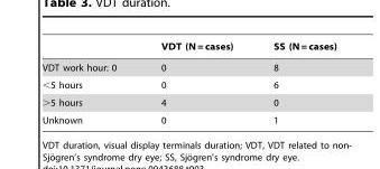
<table><thead><tr><td></td><td>VDT (N = cases)</td><td>SS (N = cases)</td></tr></thead><tbody><tr><td>VDT work hour: 0</td><td>0</td><td>8</td></tr><tr><td>&lt;5 hours</td><td>0</td><td>6</td></tr><tr><td>&gt;5 hours</td><td>4</td><td>0</td></tr><tr><td>Unknown</td><td>0</td><td>1</td></tr></tbody></table>